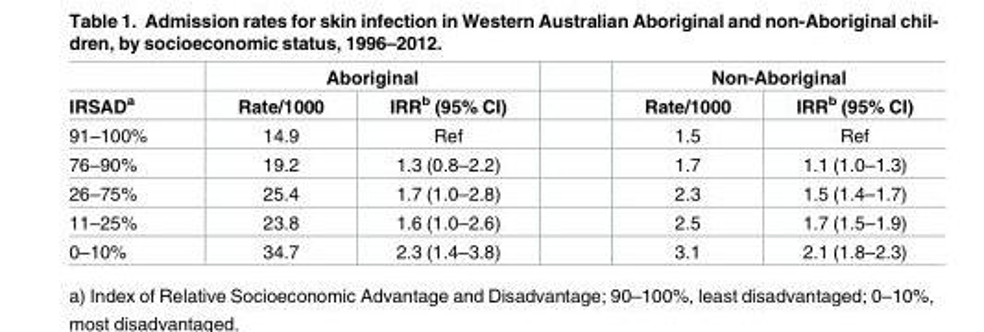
<table><thead><tr><td rowspan="2">IRSAD<sup>a</sup></td><td colspan="2">Aboriginal</td><td colspan="2">Non-Aboriginal</td></tr><tr><td>Rate/1000</td><td>IRR<sup>b</sup> (95% CI)</td><td>Rate/1000</td><td>IRR<sup>b</sup> (95% CI)</td></tr></thead><tbody><tr><td>91–100%</td><td>14.9</td><td>Ref</td><td>1.5</td><td>Ref</td></tr><tr><td>76–90%</td><td>19.2</td><td>1.3 (0.8–2.2)</td><td>1.7</td><td>1.1 (1.0–1.3)</td></tr><tr><td>26–75%</td><td>25.4</td><td>1.7 (1.0–2.8)</td><td>2.3</td><td>1.5 (1.4–1.7)</td></tr><tr><td>11–25%</td><td>23.8</td><td>1.6 (1.0–2.6)</td><td>2.5</td><td>1.7 (1.5–1.9)</td></tr><tr><td>0–10%</td><td>34.7</td><td>2.3 (1.4–3.8)</td><td>3.1</td><td>2.1 (1.8–2.3)</td></tr></tbody></table>